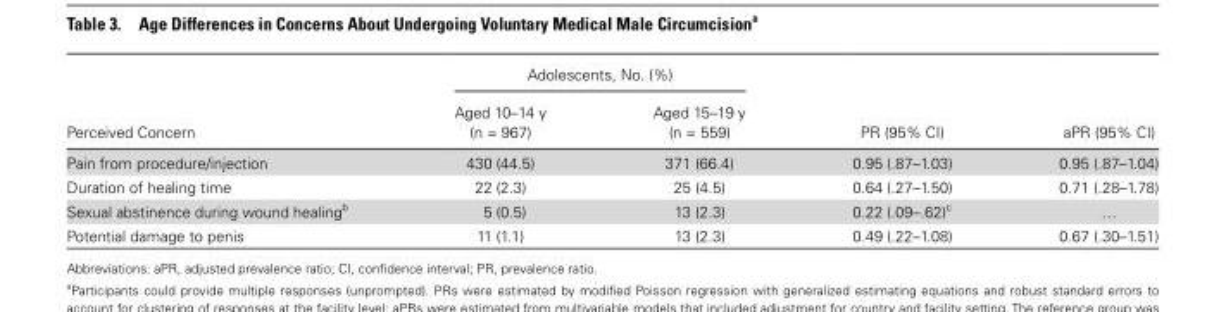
<table><thead><tr><td rowspan="2">Perceived Concern</td><td colspan="2">Adolescents, No. (%)</td><td rowspan="2">PR (95% CI)</td><td rowspan="2">aPR (95% CI)</td></tr><tr><td>Aged 10–14 y (n = 967)</td><td>Aged 15–19 y (n = 559)</td></tr></thead><tbody><tr><td>Pain from procedure/injection</td><td>430 (44.5)</td><td>371 (66.4)</td><td>0.95 (.87–1.03)</td><td>0.95 (.87–1.04)</td></tr><tr><td>Duration of healing time</td><td>22 (2.3)</td><td>25 (4.5)</td><td>0.64 (.27–1.50)</td><td>0.71 (.28–1.78)</td></tr><tr><td>Sexual abstinence during wound healing<sup>b</sup></td><td>5 (0.5)</td><td>13 (2.3)</td><td>0.22 (.09–.62)<sup>c</sup></td><td>…</td></tr><tr><td>Potential damage to penis</td><td>11 (1.1)</td><td>13 (2.3)</td><td>0.49 (.22–1.08)</td><td>0.67 (.30–1.51)</td></tr></tbody></table>